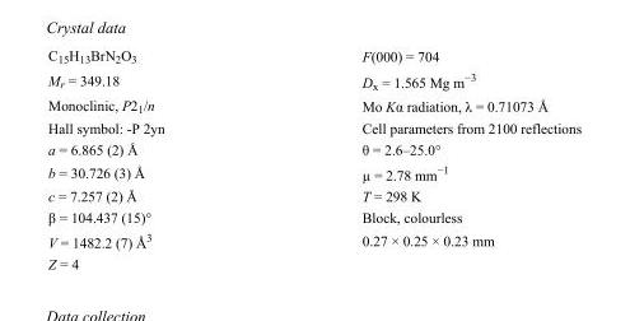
<table><tbody><tr><td>C<sub>15</sub>H<sub>13</sub>BrN<sub>2</sub>O<sub>3</sub></td><td>F(000) = 704</td></tr><tr><td>M<sub>r</sub> = 349.18</td><td>D<sub>x</sub> = 1.565 Mg m<sup>−3</sup></td></tr><tr><td>Monoclinic, P2<sub>1</sub>/n</td><td>Mo Kα radiation, λ = 0.71073 Å</td></tr><tr><td>Hall symbol: -P 2yn</td><td>Cell parameters from 2100 reflections</td></tr><tr><td>a = 6.865 (2) Å</td><td>θ = 2.6–25.0°</td></tr><tr><td>b = 30.726 (3) Å</td><td>µ = 2.78 mm<sup>−1</sup></td></tr><tr><td>c = 7.257 (2) Å</td><td>T = 298 K</td></tr><tr><td>β = 104.437 (15)°</td><td>Block, colourless</td></tr><tr><td>V = 1482.2 (7) Å<sup>3</sup></td><td>0.27 × 0.25 × 0.23 mm</td></tr><tr><td>Z = 4</td><td></td></tr></tbody></table>